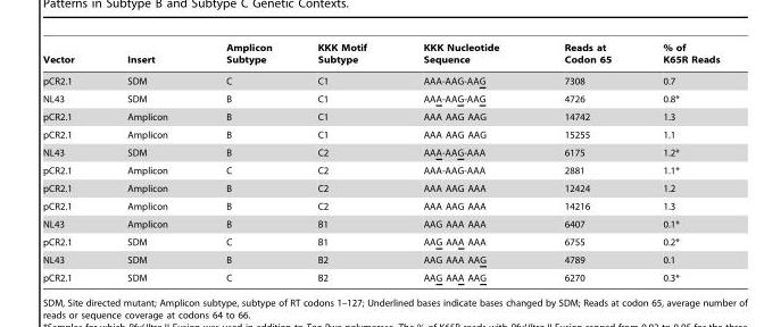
<table><thead><tr><td>Vector</td><td>Insert</td><td>Amplicon Subtype</td><td>KKK Motif Subtype</td><td>KKK Nucleotide Sequence</td><td>Reads at Codon 65</td><td>% of K65R Reads</td></tr></thead><tbody><tr><td>pCR2.1</td><td>SDM</td><td>C</td><td>C1</td><td>AAA-AAG-AAG</td><td>7308</td><td>0.7</td></tr><tr><td>NL43</td><td>SDM</td><td>B</td><td>C1</td><td>AAA-AAG-AAG</td><td>4726</td><td>0.8*</td></tr><tr><td>pCR2.1</td><td>Amplicon</td><td>B</td><td>C1</td><td>AAA AAG AAG</td><td>14742</td><td>1.3</td></tr><tr><td>pCR2.1</td><td>Amplicon</td><td>B</td><td>C1</td><td>AAA AAG AAG</td><td>15255</td><td>1.1</td></tr><tr><td>NL43</td><td>SDM</td><td>B</td><td>C2</td><td>AAA-AAG-AAA</td><td>6175</td><td>1.2*</td></tr><tr><td>pCR2.1</td><td>Amplicon</td><td>C</td><td>C2</td><td>AAA-AAG-AAA</td><td>2881</td><td>1.1*</td></tr><tr><td>pCR2.1</td><td>Amplicon</td><td>B</td><td>C2</td><td>AAA AAG AAA</td><td>12424</td><td>1.2</td></tr><tr><td>pCR2.1</td><td>Amplicon</td><td>B</td><td>C2</td><td>AAA AAG AAA</td><td>14216</td><td>1.3</td></tr><tr><td>NL43</td><td>Amplicon</td><td>B</td><td>B1</td><td>AAG AAA AAA</td><td>6407</td><td>0.1*</td></tr><tr><td>pCR2.1</td><td>SDM</td><td>C</td><td>B1</td><td>AAG AAA AAA</td><td>6755</td><td>0.2*</td></tr><tr><td>NL43</td><td>SDM</td><td>B</td><td>B2</td><td>AAG AAA AAG</td><td>4789</td><td>0.1</td></tr><tr><td>pCR2.1</td><td>SDM</td><td>C</td><td>B2</td><td>AAG AAA AAG</td><td>6270</td><td>0.3*</td></tr></tbody></table>